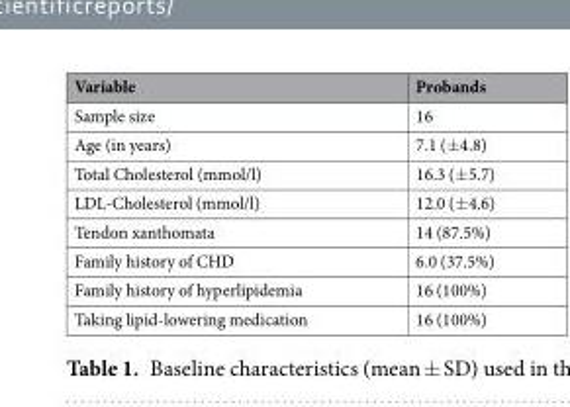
<table><thead><tr><td>Variable</td><td>Probands</td></tr></thead><tbody><tr><td>Sample size</td><td>16</td></tr><tr><td>Age (in years)</td><td>7.1 (±4.8)</td></tr><tr><td>Total Cholesterol (mmol/l)</td><td>16.3 (±5.7)</td></tr><tr><td>LDL-Cholesterol (mmol/l)</td><td>12.0 (±4.6)</td></tr><tr><td>Tendon xanthomata</td><td>14 (87.5%)</td></tr><tr><td>Family history of CHD</td><td>6.0 (37.5%)</td></tr><tr><td>Family history of hyperlipidemia</td><td>16 (100%)</td></tr><tr><td>Taking lipid-lowering medication</td><td>16 (100%)</td></tr></tbody></table>